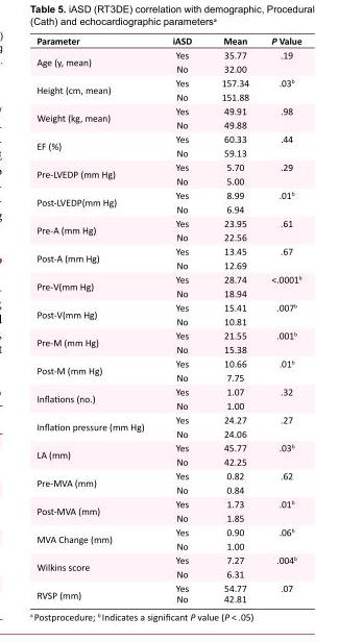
<table><tbody><tr><td>Parameter</td><td>iASD</td><td>Mean</td><td>P Value</td></tr><tr><td rowspan="2">Age (y, mean)</td><td>Yes</td><td>35.77</td><td>.19</td></tr><tr><td>No</td><td>32.00</td><td></td></tr><tr><td rowspan="2">Height (cm, mean)</td><td>Yes</td><td>157.34</td><td>.03<sup>b</sup></td></tr><tr><td>No</td><td>151.88</td><td></td></tr><tr><td rowspan="2">Weight (kg, mean)</td><td>Yes</td><td>49.91</td><td>.98</td></tr><tr><td>No</td><td>49.88</td><td></td></tr><tr><td rowspan="2">EF (%)</td><td>Yes</td><td>60.33</td><td>.44</td></tr><tr><td>No</td><td>59.13</td><td></td></tr><tr><td rowspan="2">Pre-LVEDP (mm Hg)</td><td>Yes</td><td>5.70</td><td>.29</td></tr><tr><td>No</td><td>5.00</td><td></td></tr><tr><td rowspan="2">Post-LVEDP(mm Hg)</td><td>Yes</td><td>8.99</td><td>.01<sup>b</sup></td></tr><tr><td>No</td><td>6.94</td><td></td></tr><tr><td rowspan="2">Pre-A (mm Hg)</td><td>Yes</td><td>23.95</td><td>.61</td></tr><tr><td>No</td><td>22.56</td><td></td></tr><tr><td rowspan="2">Post-A (mm Hg)</td><td>Yes</td><td>13.45</td><td>.67</td></tr><tr><td>No</td><td>12.69</td><td></td></tr><tr><td rowspan="2">Pre-V(mm Hg)</td><td>Yes</td><td>28.74</td><td>&lt;.0001<sup>b</sup></td></tr><tr><td>No</td><td>18.94</td><td></td></tr><tr><td rowspan="2">Post-V(mm Hg)</td><td>Yes</td><td>15.41</td><td>.007<sup>b</sup></td></tr><tr><td>No</td><td>10.81</td><td></td></tr><tr><td rowspan="2">Pre-M (mm Hg)</td><td>Yes</td><td>21.55</td><td>.001<sup>b</sup></td></tr><tr><td>No</td><td>15.38</td><td></td></tr><tr><td rowspan="2">Post-M (mm Hg)</td><td>Yes</td><td>10.66</td><td>.01<sup>b</sup></td></tr><tr><td>No</td><td>7.75</td><td></td></tr><tr><td rowspan="2">Inflations (no.)</td><td>Yes</td><td>1.07</td><td>.32</td></tr><tr><td>No</td><td>1.00</td><td></td></tr><tr><td rowspan="2">Inflation pressure (mm Hg)</td><td>Yes</td><td>24.27</td><td>.27</td></tr><tr><td>No</td><td>24.06</td><td></td></tr><tr><td rowspan="2">LA (mm)</td><td>Yes</td><td>45.77</td><td>.03<sup>b</sup></td></tr><tr><td>No</td><td>42.25</td><td></td></tr><tr><td rowspan="2">Pre-MVA (mm)</td><td>Yes</td><td>0.82</td><td>.62</td></tr><tr><td>No</td><td>0.84</td><td></td></tr><tr><td rowspan="2">Post-MVA (mm)</td><td>Yes</td><td>1.73</td><td>.01<sup>b</sup></td></tr><tr><td>No</td><td>1.85</td><td></td></tr><tr><td rowspan="2">MVA Change (mm)</td><td>Yes</td><td>0.90</td><td>.06<sup>b</sup></td></tr><tr><td>No</td><td>1.00</td><td></td></tr><tr><td rowspan="2">Wilkins score</td><td>Yes</td><td>7.27</td><td>.004<sup>b</sup></td></tr><tr><td>No</td><td>6.31</td><td></td></tr><tr><td rowspan="2">RVSP (mm)</td><td>Yes</td><td>54.77</td><td>.07</td></tr><tr><td>No</td><td>42.81</td><td></td></tr></tbody></table>